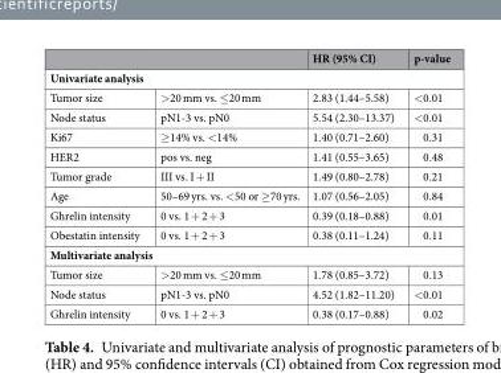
<table><thead><tr><td></td><td></td><td>HR (95% CI)</td><td>p-value</td></tr></thead><tbody><tr><td colspan="4">Univariate analysis</td></tr><tr><td>Tumor size</td><td>&gt;20 mm vs. ≤20 mm</td><td>2.83 (1.44–5.58)</td><td>&lt;0.01</td></tr><tr><td>Node status</td><td>pN1-3 vs. pN0</td><td>5.54 (2.30–13.37)</td><td>&lt;0.01</td></tr><tr><td>Ki67</td><td>≥14% vs. &lt;14%</td><td>1.40 (0.71–2.60)</td><td>0.31</td></tr><tr><td>HER2</td><td>pos vs. neg</td><td>1.41 (0.55–3.65)</td><td>0.48</td></tr><tr><td>Tumor grade</td><td>III vs. I + II</td><td>1.49 (0.80–2.78)</td><td>0.21</td></tr><tr><td>Age</td><td>50–69 yrs. vs. &lt;50 or ≥70 yrs.</td><td>1.07 (0.56–2.05)</td><td>0.84</td></tr><tr><td>Ghrelin intensity</td><td>0 vs. 1 + 2 + 3</td><td>0.39 (0.18–0.88)</td><td>0.01</td></tr><tr><td>Obestatin intensity</td><td>0 vs. 1 + 2 + 3</td><td>0.38 (0.11–1.24)</td><td>0.11</td></tr><tr><td colspan="4">Multivariate analysis</td></tr><tr><td>Tumor size</td><td>&gt;20 mm vs. ≤20 mm</td><td>1.78 (0.85–3.72)</td><td>0.13</td></tr><tr><td>Node status</td><td>pN1-3 vs. pN0</td><td>4.52 (1.82–11.20)</td><td>&lt;0.01</td></tr><tr><td>Ghrelin intensity</td><td>0 vs. 1 + 2 + 3</td><td>0.38 (0.17–0.88)</td><td>0.02</td></tr></tbody></table>